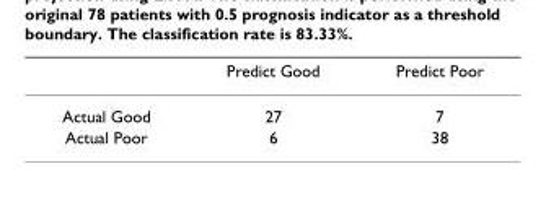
<table><thead><tr><td></td><td>Predict Good</td><td>Predict Poor</td></tr></thead><tbody><tr><td>Actual Good</td><td>27</td><td>7</td></tr><tr><td>Actual Poor</td><td>6</td><td>38</td></tr></tbody></table>